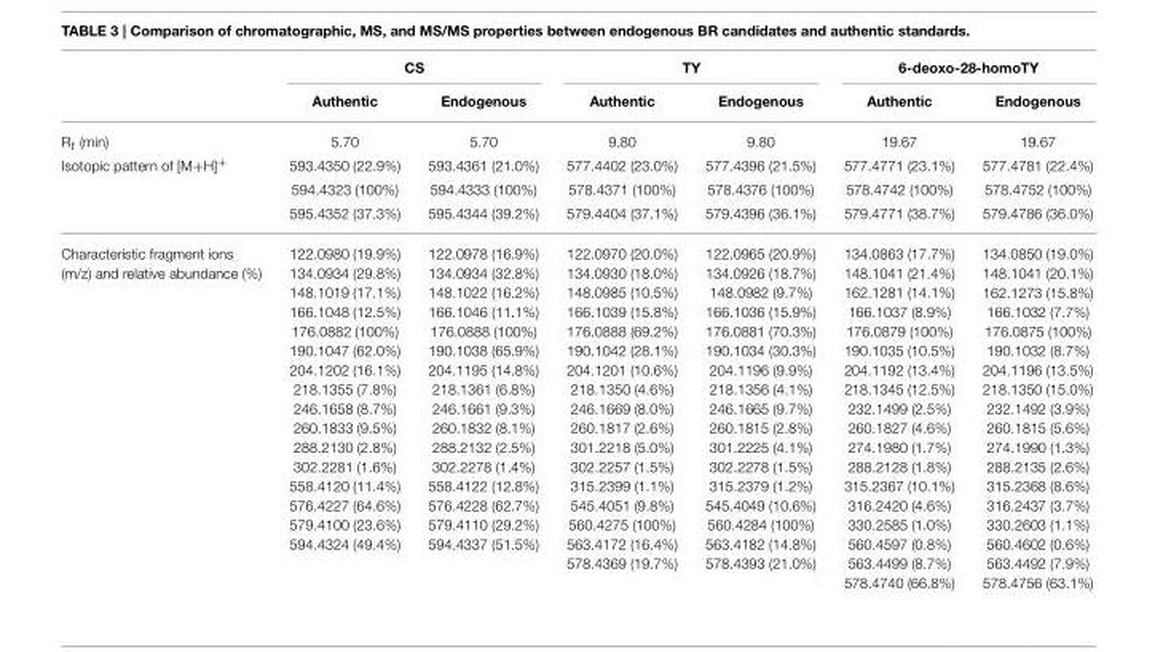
<table><thead><tr><td rowspan="2"></td><td colspan="2">CS</td><td colspan="2">TY</td><td colspan="2">6-deoxo-28-homoTY</td></tr><tr><td>Authentic</td><td>Endogenous</td><td>Authentic</td><td>Endogenous</td><td>Authentic</td><td>Endogenous</td></tr></thead><tbody><tr><td>R<sub>t</sub> (min)</td><td>5.70</td><td>5.70</td><td>9.80</td><td>9.80</td><td>19.67</td><td>19.67</td></tr><tr><td rowspan="3">Isotopic pattern of [M+H]<sup>+</sup></td><td>593.4350 (22.9%)</td><td>593.4361 (21.0%)</td><td>577.4402 (23.0%)</td><td>577.4396 (21.5%)</td><td>577.4771 (23.1%)</td><td>577.4781 (22.4%)</td></tr><tr><td>594.4323 (100%)</td><td>594.4333 (100%)</td><td>578.4371 (100%)</td><td>578.4376 (100%)</td><td>578.4742 (100%)</td><td>578.4752 (100%)</td></tr><tr><td>595.4352 (37.3%)</td><td>595.4344 (39.2%)</td><td>579.4404 (37.1%)</td><td>579.4396 (36.1%)</td><td>579.4771 (38.7%)</td><td>579.4786 (36.0%)</td></tr><tr><td>Characteristic fragment ions (m/z) and relative abundance (%)</td><td>122.0980 (19.9%) 134.0934 (29.8%) 148.1019 (17.1%) 166.1048 (12.5%) 176.0882 (100%) 190.1047 (62.0%) 204.1202 (16.1%) 218.1355 (7.8%) 246.1658 (8.7%) 260.1833 (9.5%) 288.2130 (2.8%) 302.2281 (1.6%) 558.4120 (11.4%) 576.4227 (64.6%) 579.4100 (23.6%) 594.4324 (49.4%)</td><td>122.0978 (16.9%) 134.0934 (32.8%) 148.1022 (16.2%) 166.1046 (11.1%) 176.0888 (100%) 190.1038 (65.9%) 204.1195 (14.8%) 218.1361 (6.8%) 246.1661 (9.3%) 260.1832 (8.1%) 288.2132 (2.5%) 302.2278 (1.4%) 558.4122 (12.8%) 576.4228 (62.7%) 579.4110 (29.2%) 594.4337 (51.5%)</td><td>122.0970 (20.0%) 134.0930 (18.0%) 148.0985 (10.5%) 166.1039 (15.8%) 176.0888 (69.2%) 190.1042 (28.1%) 204.1201 (10.6%) 218.1350 (4.6%) 246.1669 (8.0%) 260.1817 (2.6%) 301.2218 (5.0%) 302.2257 (1.5%) 315.2399 (1.1%) 545.4051 (9.8%) 560.4275 (100%) 563.4172 (16.4%) 578.4369 (19.7%)</td><td>122.0965 (20.9%) 134.0926 (18.7%) 148.0982 (9.7%) 166.1036 (15.9%) 176.0881 (70.3%) 190.1034 (30.3%) 204.1196 (9.9%) 218.1356 (4.1%) 246.1665 (9.7%) 260.1815 (2.8%) 301.2225 (4.1%) 302.2278 (1.5%) 315.2379 (1.2%) 545.4049 (10.6%) 560.4284 (100%) 563.4182 (14.8%) 578.4393 (21.0%)</td><td>134.0863 (17.7%) 148.1041 (21.4%) 162.1281 (14.1%) 166.1037 (8.9%) 176.0879 (100%) 190.1035 (10.5%) 204.1192 (13.4%) 218.1345 (12.5%) 232.1499 (2.5%) 260.1827 (4.6%) 274.1980 (1.7%) 288.2128 (1.8%) 315.2367 (10.1%) 316.2420 (4.6%) 330.2585 (1.0%) 560.4597 (0.8%) 563.4499 (8.7%) 578.4740 (66.8%)</td><td>134.0850 (19.0%) 148.1041 (20.1%) 162.1273 (15.8%) 166.1032 (7.7%) 176.0875 (100%) 190.1032 (8.7%) 204.1196 (13.5%) 218.1350 (15.0%) 232.1492 (3.9%) 260.1815 (5.6%) 274.1990 (1.3%) 288.2135 (2.6%) 315.2368 (8.6%) 316.2437 (3.7%) 330.2603 (1.1%) 560.4602 (0.6%) 563.4492 (7.9%) 578.4756 (63.1%)</td></tr></tbody></table>